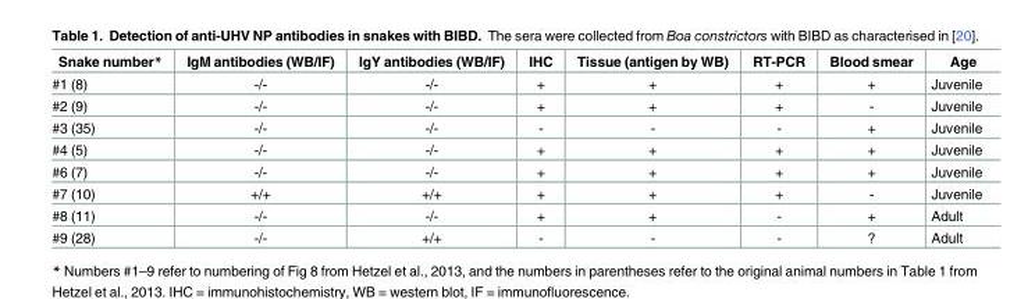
<table><thead><tr><td>Snake number*</td><td>IgM antibodies (WB/IF)</td><td>IgY antibodies (WB/IF)</td><td>IHC</td><td>Tissue (antigen by WB)</td><td>RT-PCR</td><td>Blood smear</td><td>Age</td></tr></thead><tbody><tr><td>#1 (8)</td><td>-/-</td><td>-/-</td><td>+</td><td>+</td><td>+</td><td>+</td><td>Juvenile</td></tr><tr><td>#2 (9)</td><td>-/-</td><td>-/-</td><td>+</td><td>+</td><td>+</td><td>-</td><td>Juvenile</td></tr><tr><td>#3 (35)</td><td>-/-</td><td>-/-</td><td>-</td><td>-</td><td>-</td><td>+</td><td>Juvenile</td></tr><tr><td>#4 (5)</td><td>-/-</td><td>-/-</td><td>+</td><td>+</td><td>+</td><td>+</td><td>Juvenile</td></tr><tr><td>#6 (7)</td><td>-/-</td><td>-/-</td><td>+</td><td>+</td><td>+</td><td>+</td><td>Juvenile</td></tr><tr><td>#7 (10)</td><td>+/+</td><td>+/+</td><td>+</td><td>+</td><td>+</td><td>-</td><td>Juvenile</td></tr><tr><td>#8 (11)</td><td>-/-</td><td>-/-</td><td>+</td><td>+</td><td>-</td><td>+</td><td>Adult</td></tr><tr><td>#9 (28)</td><td>-/-</td><td>+/+</td><td>-</td><td>-</td><td>-</td><td>?</td><td>Adult</td></tr></tbody></table>